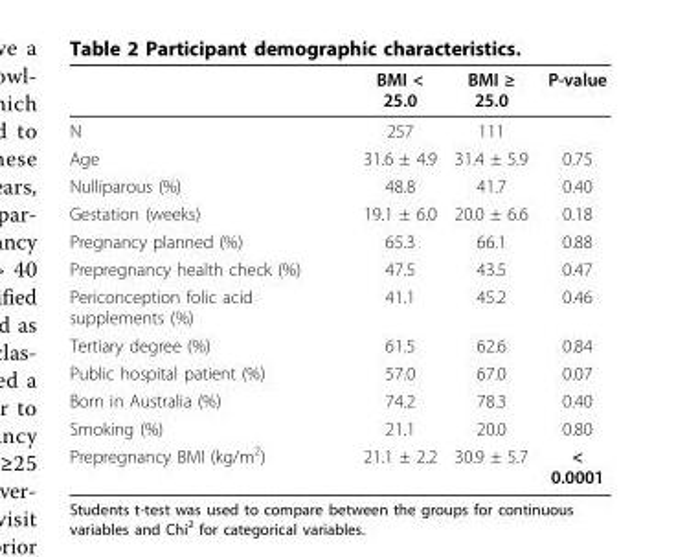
<table><thead><tr><td></td><td>BMI &lt; 25.0</td><td>BMI ≥ 25.0</td><td>P-value</td></tr></thead><tbody><tr><td>N</td><td>257</td><td>111</td><td></td></tr><tr><td>Age</td><td>31.6 ± 4.9</td><td>31.4 ± 5.9</td><td>0.75</td></tr><tr><td>Nulliparous (%)</td><td>48.8</td><td>41.7</td><td>0.40</td></tr><tr><td>Gestation (weeks)</td><td>19.1 ± 6.0</td><td>20.0 ± 6.6</td><td>0.18</td></tr><tr><td>Pregnancy planned (%)</td><td>65.3</td><td>66.1</td><td>0.88</td></tr><tr><td>Prepregnancy health check (%)</td><td>47.5</td><td>43.5</td><td>0.47</td></tr><tr><td>Periconception folic acid supplements (%)</td><td>41.1</td><td>45.2</td><td>0.46</td></tr><tr><td>Tertiary degree (%)</td><td>61.5</td><td>62.6</td><td>0.84</td></tr><tr><td>Public hospital patient (%)</td><td>57.0</td><td>67.0</td><td>0.07</td></tr><tr><td>Born in Australia (%)</td><td>74.2</td><td>78.3</td><td>0.40</td></tr><tr><td>Smoking (%)</td><td>21.1</td><td>20.0</td><td>0.80</td></tr><tr><td>Prepregnancy BMI (kg/m<sup>2</sup>)</td><td>21.1 ± 2.2</td><td>30.9 ± 5.7</td><td>&lt; 0.0001</td></tr></tbody></table>